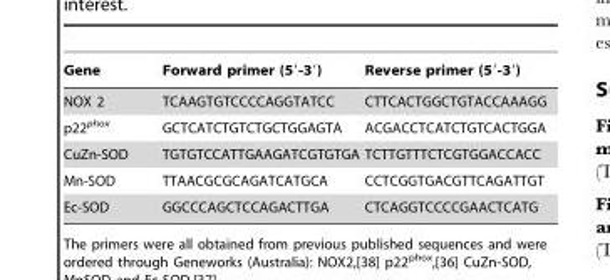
<table><thead><tr><td>Gene</td><td>Forward primer (5′-3′)</td><td>Reverse primer (5′-3′)</td></tr></thead><tbody><tr><td>NOX 2</td><td>TCAAGTGTCCCCAGGTATCC</td><td>CTTCACTGGCTGTACCAAAGG</td></tr><tr><td>p22<sup>phox</sup></td><td>GCTCATCTGTCTGCTGGAGTA</td><td>ACGACCTCATCTGTCACTGGA</td></tr><tr><td>CuZn-SOD</td><td>TGTGTCCATTGAAGATCGTGTGA</td><td>TCTTGTTTCTCGTGGACCACC</td></tr><tr><td>Mn-SOD</td><td>TTAACGCGCAGATCATGCA</td><td>CCTCGGTGACGTTCAGATTGT</td></tr><tr><td>Ec-SOD</td><td>GGCCCAGCTCCAGACTTGA</td><td>CTCAGGTCCCCGAACTCATG</td></tr></tbody></table>